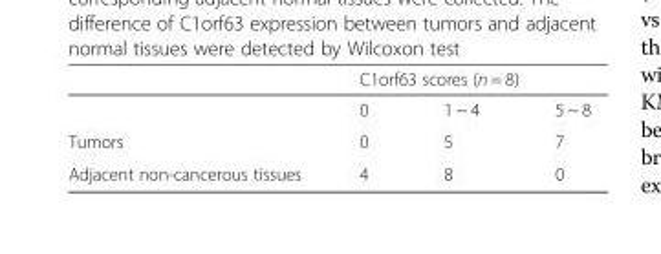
<table><thead><tr><td rowspan="2"></td><td colspan="3">C1orf63 scores (n = 8)</td></tr><tr><td>0</td><td>1 ~ 4</td><td>5 ~ 8</td></tr></thead><tbody><tr><td>Tumors</td><td>0</td><td>5</td><td>7</td></tr><tr><td>Adjacent non-cancerous tissues</td><td>4</td><td>8</td><td>0</td></tr></tbody></table>